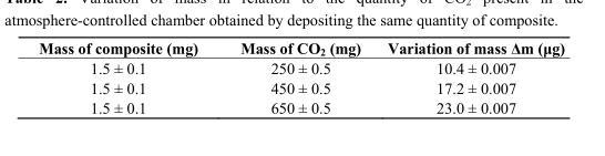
<table><thead><tr><td>Mass of composite (mg)</td><td>Mass of CO<sub>2</sub> (mg)</td><td>Variation of mass Δm (μg)</td></tr></thead><tbody><tr><td>1.5 ± 0.1</td><td>250 ± 0.5</td><td>10.4 ± 0.007</td></tr><tr><td>1.5 ± 0.1</td><td>450 ± 0.5</td><td>17.2 ± 0.007</td></tr><tr><td>1.5 ± 0.1</td><td>650 ± 0.5</td><td>23.0 ± 0.007</td></tr></tbody></table>